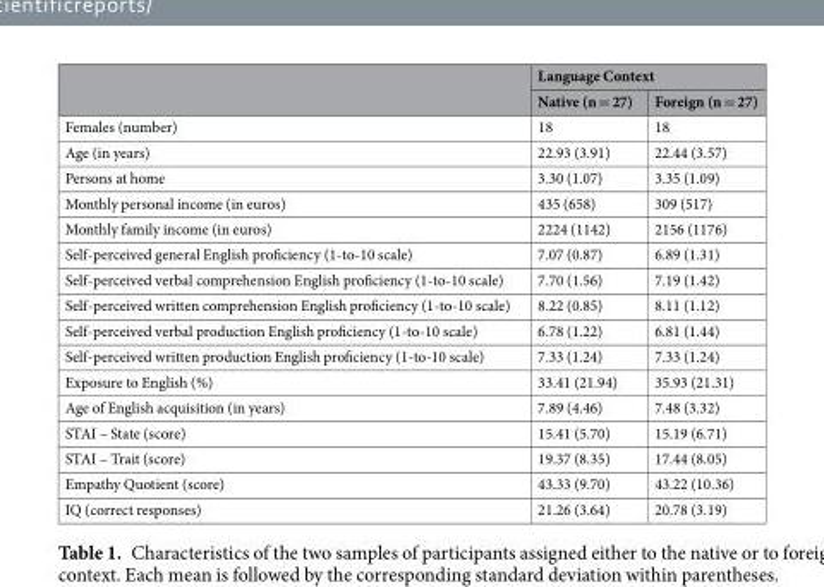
<table><thead><tr><td rowspan="2"></td><td colspan="2">Language Context</td></tr><tr><td>Native (n = 27)</td><td>Foreign (n = 27)</td></tr></thead><tbody><tr><td>Females (number)</td><td>18</td><td>18</td></tr><tr><td>Age (in years)</td><td>22.93 (3.91)</td><td>22.44 (3.57)</td></tr><tr><td>Persons at home</td><td>3.30 (1.07)</td><td>3.35 (1.09)</td></tr><tr><td>Monthly personal income (in euros)</td><td>435 (658)</td><td>309 (517)</td></tr><tr><td>Monthly family income (in euros)</td><td>2224 (1142)</td><td>2156 (1176)</td></tr><tr><td>Self-perceived general English proficiency (1-to-10 scale)</td><td>7.07 (0.87)</td><td>6.89 (1.31)</td></tr><tr><td>Self-perceived verbal comprehension English proficiency (1-to-10 scale)</td><td>7.70 (1.56)</td><td>7.19 (1.42)</td></tr><tr><td>Self-perceived written comprehension English proficiency (1-to-10 scale)</td><td>8.22 (0.85)</td><td>8.11 (1.12)</td></tr><tr><td>Self-perceived verbal production English proficiency (1-to-10 scale)</td><td>6.78 (1.22)</td><td>6.81 (1.44)</td></tr><tr><td>Self-perceived written production English proficiency (1-to-10 scale)</td><td>7.33 (1.24)</td><td>7.33 (1.24)</td></tr><tr><td>Exposure to English (%)</td><td>33.41 (21.94)</td><td>35.93 (21.31)</td></tr><tr><td>Age of English acquisition (in years)</td><td>7.89 (4.46)</td><td>7.48 (3.32)</td></tr><tr><td>STAI – State (score)</td><td>15.41 (5.70)</td><td>15.19 (6.71)</td></tr><tr><td>STAI – Trait (score)</td><td>19.37 (8.35)</td><td>17.44 (8.05)</td></tr><tr><td>Empathy Quotient (score)</td><td>43.33 (9.70)</td><td>43.22 (10.36)</td></tr><tr><td>IQ (correct responses)</td><td>21.26 (3.64)</td><td>20.78 (3.19)</td></tr></tbody></table>